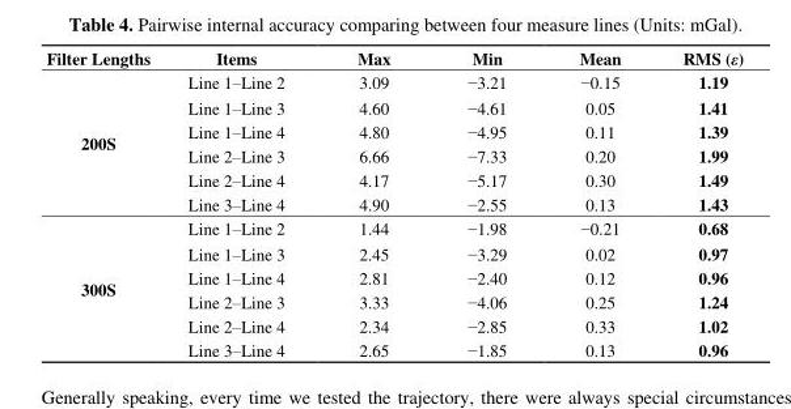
<table><thead><tr><td>Filter Lengths</td><td>Items</td><td>Max</td><td>Min</td><td>Mean</td><td>RMS (ε)</td></tr></thead><tbody><tr><td rowspan="6">200S</td><td>Line 1–Line 2</td><td>3.09</td><td>−3.21</td><td>−0.15</td><td>1.19</td></tr><tr><td>Line 1–Line 3</td><td>4.60</td><td>−4.61</td><td>0.05</td><td>1.41</td></tr><tr><td>Line 1–Line 4</td><td>4.80</td><td>−4.95</td><td>0.11</td><td>1.39</td></tr><tr><td>Line 2–Line 3</td><td>6.66</td><td>−7.33</td><td>0.20</td><td>1.99</td></tr><tr><td>Line 2–Line 4</td><td>4.17</td><td>−5.17</td><td>0.30</td><td>1.49</td></tr><tr><td>Line 3–Line 4</td><td>4.90</td><td>−2.55</td><td>0.13</td><td>1.43</td></tr><tr><td rowspan="6">300S</td><td>Line 1–Line 2</td><td>1.44</td><td>−1.98</td><td>−0.21</td><td>0.68</td></tr><tr><td>Line 1–Line 3</td><td>2.45</td><td>−3.29</td><td>0.02</td><td>0.97</td></tr><tr><td>Line 1–Line 4</td><td>2.81</td><td>−2.40</td><td>0.12</td><td>0.96</td></tr><tr><td>Line 2–Line 3</td><td>3.33</td><td>−4.06</td><td>0.25</td><td>1.24</td></tr><tr><td>Line 2–Line 4</td><td>2.34</td><td>−2.85</td><td>0.33</td><td>1.02</td></tr><tr><td>Line 3–Line 4</td><td>2.65</td><td>−1.85</td><td>0.13</td><td>0.96</td></tr></tbody></table>